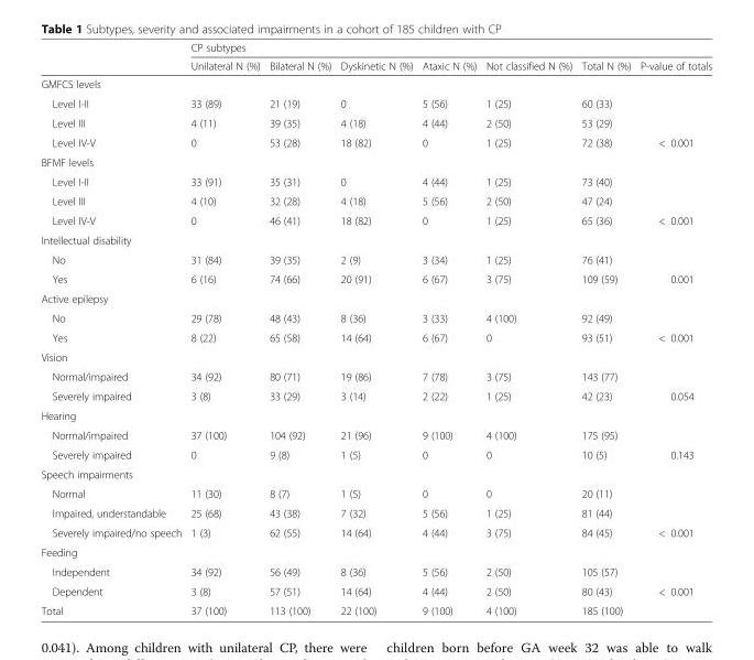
<table><thead><tr><td rowspan="2"></td><td colspan="7">CP subtypes</td></tr><tr><td>Unilateral N (%)</td><td>Bilateral N (%)</td><td>Dyskinetic N (%)</td><td>Ataxic N (%)</td><td>Not classified N (%)</td><td>Total N (%)</td><td>P-value of totals</td></tr></thead><tbody><tr><td colspan="8">GMFCS levels</td></tr><tr><td>Level I-II</td><td>33 (89)</td><td>21 (19)</td><td>0</td><td>5 (56)</td><td>1 (25)</td><td>60 (33)</td><td></td></tr><tr><td>Level III</td><td>4 (11)</td><td>39 (35)</td><td>4 (18)</td><td>4 (44)</td><td>2 (50)</td><td>53 (29)</td><td></td></tr><tr><td>Level IV-V</td><td>0</td><td>53 (28)</td><td>18 (82)</td><td>0</td><td>1 (25)</td><td>72 (38)</td><td>&lt; 0.001</td></tr><tr><td colspan="8">BFMF levels</td></tr><tr><td>Level I-II</td><td>33 (91)</td><td>35 (31)</td><td>0</td><td>4 (44)</td><td>1 (25)</td><td>73 (40)</td><td></td></tr><tr><td>Level III</td><td>4 (10)</td><td>32 (28)</td><td>4 (18)</td><td>5 (56)</td><td>2 (50)</td><td>47 (24)</td><td></td></tr><tr><td>Level IV-V</td><td>0</td><td>46 (41)</td><td>18 (82)</td><td>0</td><td>1 (25)</td><td>65 (36)</td><td>&lt; 0.001</td></tr><tr><td colspan="8">Intellectual disability</td></tr><tr><td>No</td><td>31 (84)</td><td>39 (35)</td><td>2 (9)</td><td>3 (34)</td><td>1 (25)</td><td>76 (41)</td><td></td></tr><tr><td>Yes</td><td>6 (16)</td><td>74 (66)</td><td>20 (91)</td><td>6 (67)</td><td>3 (75)</td><td>109 (59)</td><td>0.001</td></tr><tr><td colspan="8">Active epilepsy</td></tr><tr><td>No</td><td>29 (78)</td><td>48 (43)</td><td>8 (36)</td><td>3 (33)</td><td>4 (100)</td><td>92 (49)</td><td></td></tr><tr><td>Yes</td><td>8 (22)</td><td>65 (58)</td><td>14 (64)</td><td>6 (67)</td><td>0</td><td>93 (51)</td><td>&lt; 0.001</td></tr><tr><td colspan="8">Vision</td></tr><tr><td>Normal/impaired</td><td>34 (92)</td><td>80 (71)</td><td>19 (86)</td><td>7 (78)</td><td>3 (75)</td><td>143 (77)</td><td></td></tr><tr><td>Severely impaired</td><td>3 (8)</td><td>33 (29)</td><td>3 (14)</td><td>2 (22)</td><td>1 (25)</td><td>42 (23)</td><td>0.054</td></tr><tr><td colspan="8">Hearing</td></tr><tr><td>Normal/impaired</td><td>37 (100)</td><td>104 (92)</td><td>21 (96)</td><td>9 (100)</td><td>4 (100)</td><td>175 (95)</td><td></td></tr><tr><td>Severely impaired</td><td>0</td><td>9 (8)</td><td>1 (5)</td><td>0</td><td>0</td><td>10 (5)</td><td>0.143</td></tr><tr><td colspan="8">Speech impairments</td></tr><tr><td>Normal</td><td>11 (30)</td><td>8 (7)</td><td>1 (5)</td><td>0</td><td>0</td><td>20 (11)</td><td></td></tr><tr><td>Impaired, understandable</td><td>25 (68)</td><td>43 (38)</td><td>7 (32)</td><td>5 (56)</td><td>1 (25)</td><td>81 (44)</td><td></td></tr><tr><td>Severely impaired/no speech</td><td>1 (3)</td><td>62 (55)</td><td>14 (64)</td><td>4 (44)</td><td>3 (75)</td><td>84 (45)</td><td>&lt; 0.001</td></tr><tr><td colspan="8">Feeding</td></tr><tr><td>Independent</td><td>34 (92)</td><td>56 (49)</td><td>8 (36)</td><td>5 (56)</td><td>2 (50)</td><td>105 (57)</td><td></td></tr><tr><td>Dependent</td><td>3 (8)</td><td>57 (51)</td><td>14 (64)</td><td>4 (44)</td><td>2 (50)</td><td>80 (43)</td><td>&lt; 0.001</td></tr><tr><td>Total</td><td>37 (100)</td><td>113 (100)</td><td>22 (100)</td><td>9 (100)</td><td>4 (100)</td><td>185 (100)</td><td></td></tr></tbody></table>